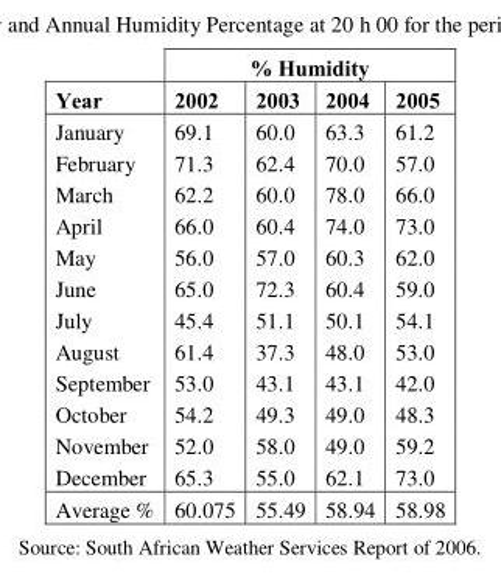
<table><thead><tr><td rowspan="2">Year</td><td colspan="4">% Humidity</td></tr><tr><td>2002</td><td>2003</td><td>2004</td><td>2005</td></tr></thead><tbody><tr><td>January</td><td>69.1</td><td>60.0</td><td>63.3</td><td>61.2</td></tr><tr><td>February</td><td>71.3</td><td>62.4</td><td>70.0</td><td>57.0</td></tr><tr><td>March</td><td>62.2</td><td>60.0</td><td>78.0</td><td>66.0</td></tr><tr><td>April</td><td>66.0</td><td>60.4</td><td>74.0</td><td>73.0</td></tr><tr><td>May</td><td>56.0</td><td>57.0</td><td>60.3</td><td>62.0</td></tr><tr><td>June</td><td>65.0</td><td>72.3</td><td>60.4</td><td>59.0</td></tr><tr><td>July</td><td>45.4</td><td>51.1</td><td>50.1</td><td>54.1</td></tr><tr><td>August</td><td>61.4</td><td>37.3</td><td>48.0</td><td>53.0</td></tr><tr><td>September</td><td>53.0</td><td>43.1</td><td>43.1</td><td>42.0</td></tr><tr><td>October</td><td>54.2</td><td>49.3</td><td>49.0</td><td>48.3</td></tr><tr><td>November</td><td>52.0</td><td>58.0</td><td>49.0</td><td>59.2</td></tr><tr><td>December</td><td>65.3</td><td>55.0</td><td>62.1</td><td>73.0</td></tr><tr><td>Average %</td><td>60.075</td><td>55.49</td><td>58.94</td><td>58.98</td></tr></tbody></table>